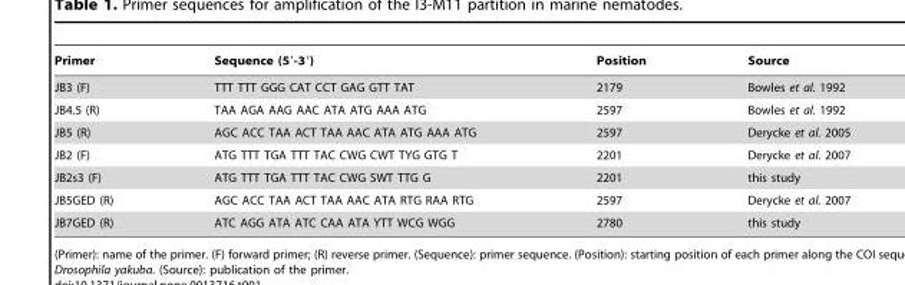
<table><thead><tr><td>Primer</td><td>Sequence (5′-3′)</td><td>Position</td><td>Source</td></tr></thead><tbody><tr><td>JB3 (F)</td><td>TTT TTT GGG CAT CCT GAG GTT TAT</td><td>2179</td><td>Bowles et al. 1992</td></tr><tr><td>JB4.5 (R)</td><td>TAA AGA AAG AAC ATA ATG AAA ATG</td><td>2597</td><td>Bowles et al. 1992</td></tr><tr><td>JB5 (R)</td><td>AGC ACC TAA ACT TAA AAC ATA ATG AAA ATG</td><td>2597</td><td>Derycke et al. 2005</td></tr><tr><td>JB2 (F)</td><td>ATG TTT TGA TTT TAC CWG CWT TYG GTG T</td><td>2201</td><td>Derycke et al. 2007</td></tr><tr><td>JB2s3 (F)</td><td>ATG TTT TGA TTT TAC CWG SWT TTG G</td><td>2201</td><td>this study</td></tr><tr><td>JB5GED (R)</td><td>AGC ACC TAA ACT TAA AAC ATA RTG RAA RTG</td><td>2597</td><td>Derycke et al. 2007</td></tr><tr><td>JB7GED (R)</td><td>ATC AGG ATA ATC CAA ATA YTT WCG WGG</td><td>2780</td><td>this study</td></tr></tbody></table>